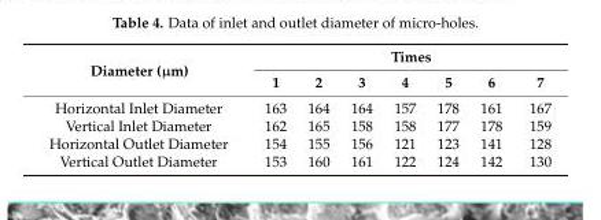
<table><thead><tr><td rowspan="2">Diameter (µm)</td><td colspan="7">Times</td></tr><tr><td>1</td><td>2</td><td>3</td><td>4</td><td>5</td><td>6</td><td>7</td></tr></thead><tbody><tr><td>Horizontal Inlet Diameter</td><td>163</td><td>164</td><td>164</td><td>157</td><td>178</td><td>161</td><td>167</td></tr><tr><td>Vertical Inlet Diameter</td><td>162</td><td>165</td><td>158</td><td>158</td><td>177</td><td>178</td><td>159</td></tr><tr><td>Horizontal Outlet Diameter</td><td>154</td><td>155</td><td>156</td><td>121</td><td>123</td><td>141</td><td>128</td></tr><tr><td>Vertical Outlet Diameter</td><td>153</td><td>160</td><td>161</td><td>122</td><td>124</td><td>142</td><td>130</td></tr></tbody></table>